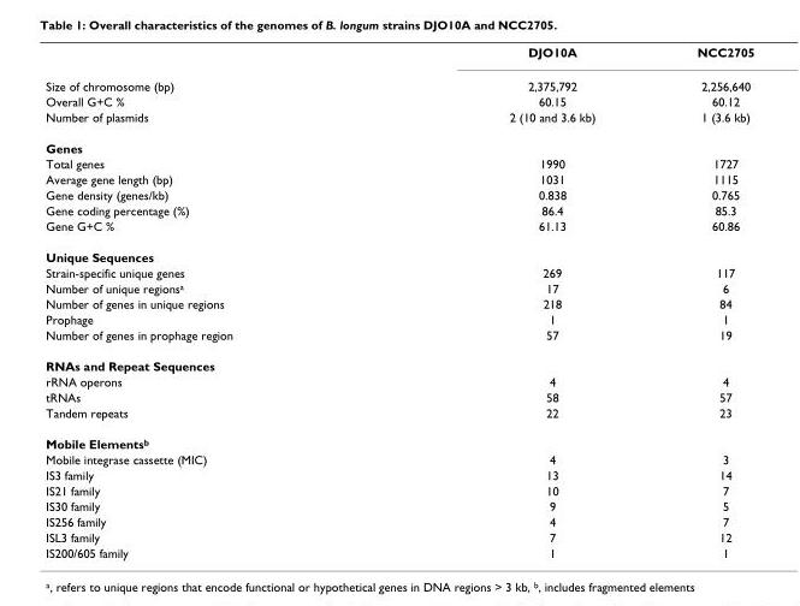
<table><thead><tr><td></td><td>DJO10A</td><td>NCC2705</td></tr></thead><tbody><tr><td>Size of chromosome (bp)</td><td>2,375,792</td><td>2,256,640</td></tr><tr><td>Overall G+C %</td><td>60.15</td><td>60.12</td></tr><tr><td>Number of plasmids</td><td>2 (10 and 3.6 kb)</td><td>1 (3.6 kb)</td></tr><tr><td colspan="3">Genes</td></tr><tr><td>Total genes</td><td>1990</td><td>1727</td></tr><tr><td>Average gene length (bp)</td><td>1031</td><td>1115</td></tr><tr><td>Gene density (genes/kb)</td><td>0.838</td><td>0.765</td></tr><tr><td>Gene coding percentage (%)</td><td>86.4</td><td>85.3</td></tr><tr><td>Gene G+C %</td><td>61.13</td><td>60.86</td></tr><tr><td colspan="3">Unique Sequences</td></tr><tr><td>Strain-specific unique genes</td><td>269</td><td>117</td></tr><tr><td>Number of unique regions<sup>a</sup></td><td>17</td><td>6</td></tr><tr><td>Number of genes in unique regions</td><td>218</td><td>84</td></tr><tr><td>Prophage</td><td>1</td><td>1</td></tr><tr><td>Number of genes in prophage region</td><td>57</td><td>19</td></tr><tr><td colspan="3">RNAs and Repeat Sequences</td></tr><tr><td>rRNA operons</td><td>4</td><td>4</td></tr><tr><td>tRNAs</td><td>58</td><td>57</td></tr><tr><td>Tandem repeats</td><td>22</td><td>23</td></tr><tr><td colspan="3">Mobile Elements<sup>b</sup></td></tr><tr><td>Mobile integrase cassette (MIC)</td><td>4</td><td>3</td></tr><tr><td>IS3 family</td><td>13</td><td>14</td></tr><tr><td>IS21 family</td><td>10</td><td>7</td></tr><tr><td>IS30 family</td><td>9</td><td>5</td></tr><tr><td>IS256 family</td><td>4</td><td>7</td></tr><tr><td>ISL3 family</td><td>7</td><td>12</td></tr><tr><td>IS200/605 family</td><td>1</td><td>1</td></tr></tbody></table>